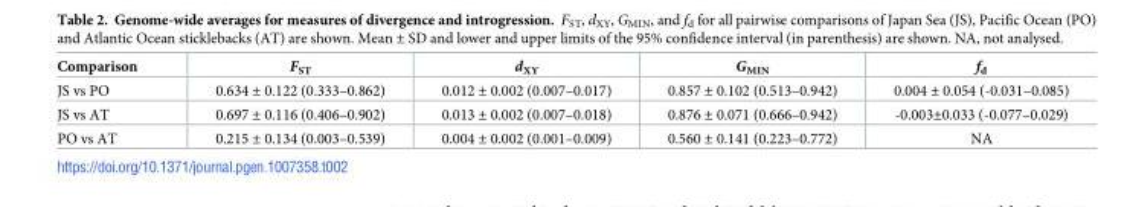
<table><thead><tr><td>Comparison</td><td>F<sub>ST</sub></td><td>d<sub>XY</sub></td><td>G<sub>MIN</sub></td><td>f<sub>d</sub></td></tr></thead><tbody><tr><td>JS vs PO</td><td>0.634 ± 0.122 (0.333–0.862)</td><td>0.012 ± 0.002 (0.007–0.017)</td><td>0.857 ± 0.102 (0.513–0.942)</td><td>0.004 ± 0.054 (-0.031–0.085)</td></tr><tr><td>JS vs AT</td><td>0.697 ± 0.116 (0.406–0.902)</td><td>0.013 ± 0.002 (0.007–0.018)</td><td>0.876 ± 0.071 (0.666–0.942)</td><td>-0.003±0.033 (-0.077–0.029)</td></tr><tr><td>PO vs AT</td><td>0.215 ± 0.134 (0.003–0.539)</td><td>0.004 ± 0.002 (0.001–0.009)</td><td>0.560 ± 0.141 (0.223–0.772)</td><td>NA</td></tr></tbody></table>